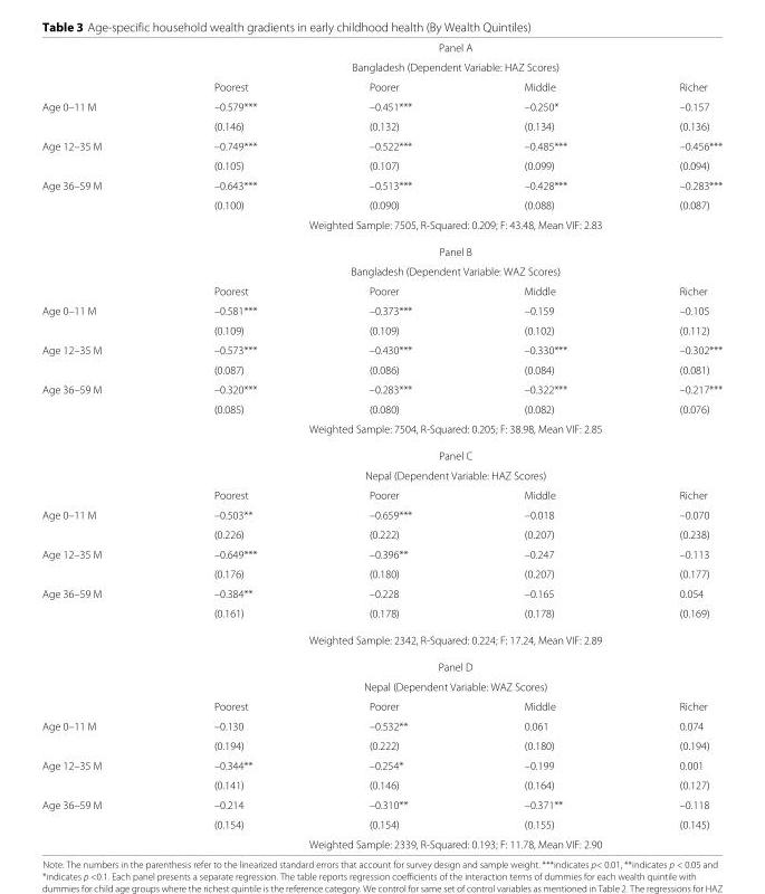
<table><thead><tr><td rowspan="3"></td><td rowspan="2" colspan="4">Panel A Bangladesh (Dependent Variable: HAZ Scores)</td></tr><tr></tr><tr><td>Poorest</td><td>Poorer</td><td>Middle</td><td>Richer</td></tr></thead><tbody><tr><td rowspan="2">Age 0–11 M</td><td>–0.579***</td><td>–0.451***</td><td>–0.250*</td><td>–0.157</td></tr><tr><td>(0.146)</td><td>(0.132)</td><td>(0.134)</td><td>(0.136)</td></tr><tr><td rowspan="2">Age 12–35 M</td><td>–0.749***</td><td>–0.522***</td><td>–0.485***</td><td>–0.456***</td></tr><tr><td>(0.105)</td><td>(0.107)</td><td>(0.099)</td><td>(0.094)</td></tr><tr><td rowspan="6">Age 36–59 M</td><td>–0.643***</td><td>–0.513***</td><td>–0.428***</td><td>–0.283***</td></tr><tr><td>(0.100)</td><td>(0.090)</td><td>(0.088)</td><td>(0.087)</td></tr><tr><td colspan="4">Weighted Sample: 7505, R-Squared: 0.209; F: 43.48, Mean VIF: 2.83</td></tr><tr><td colspan="4">Panel B</td></tr><tr><td colspan="4">Bangladesh (Dependent Variable: WAZ Scores)</td></tr><tr><td>Poorest</td><td>Poorer</td><td>Middle</td><td>Richer</td></tr><tr><td rowspan="2">Age 0–11 M</td><td>–0.581***</td><td>–0.373***</td><td>–0.159</td><td>–0.105</td></tr><tr><td>(0.109)</td><td>(0.109)</td><td>(0.102)</td><td>(0.112)</td></tr><tr><td rowspan="2">Age 12–35 M</td><td>–0.573***</td><td>–0.430***</td><td>–0.330***</td><td>–0.302***</td></tr><tr><td>(0.087)</td><td>(0.086)</td><td>(0.084)</td><td>(0.081)</td></tr><tr><td rowspan="6">Age 36–59 M</td><td>–0.320***</td><td>–0.283***</td><td>–0.322***</td><td>–0.217***</td></tr><tr><td>(0.085)</td><td>(0.080)</td><td>(0.082)</td><td>(0.076)</td></tr><tr><td colspan="4">Weighted Sample: 7504, R-Squared: 0.205; F: 38.98, Mean VIF: 2.85</td></tr><tr><td colspan="4">Panel C</td></tr><tr><td colspan="4">Nepal (Dependent Variable: HAZ Scores)</td></tr><tr><td>Poorest</td><td>Poorer</td><td>Middle</td><td>Richer</td></tr><tr><td rowspan="2">Age 0–11 M</td><td>–0.503**</td><td>–0.659***</td><td>–0.018</td><td>–0.070</td></tr><tr><td>(0.226)</td><td>(0.222)</td><td>(0.207)</td><td>(0.238)</td></tr><tr><td rowspan="2">Age 12–35 M</td><td>–0.649***</td><td>–0.396**</td><td>–0.247</td><td>–0.113</td></tr><tr><td>(0.176)</td><td>(0.180)</td><td>(0.207)</td><td>(0.177)</td></tr><tr><td rowspan="6">Age 36–59 M</td><td>–0.384**</td><td>–0.228</td><td>–0.165</td><td>0.054</td></tr><tr><td>(0.161)</td><td>(0.178)</td><td>(0.178)</td><td>(0.169)</td></tr><tr><td colspan="4">Weighted Sample: 2342, R-Squared: 0.224; F: 17.24, Mean VIF: 2.89</td></tr><tr><td colspan="4">Panel D</td></tr><tr><td colspan="4">Nepal (Dependent Variable: WAZ Scores)</td></tr><tr><td>Poorest</td><td>Poorer</td><td>Middle</td><td>Richer</td></tr><tr><td rowspan="2">Age 0–11 M</td><td>–0.130</td><td>–0.532**</td><td>0.061</td><td>0.074</td></tr><tr><td>(0.194)</td><td>(0.222)</td><td>(0.180)</td><td>(0.194)</td></tr><tr><td rowspan="2">Age 12–35 M</td><td>–0.344**</td><td>–0.254*</td><td>–0.199</td><td>0.001</td></tr><tr><td>(0.141)</td><td>(0.146)</td><td>(0.164)</td><td>(0.127)</td></tr><tr><td rowspan="3">Age 36–59 M</td><td>–0.214</td><td>–0.310**</td><td>–0.371**</td><td>–0.118</td></tr><tr><td>(0.154)</td><td>(0.154)</td><td>(0.155)</td><td>(0.145)</td></tr><tr><td colspan="4">Weighted Sample: 2339, R-Squared: 0.193; F: 11.78, Mean VIF: 2.90</td></tr></tbody></table>